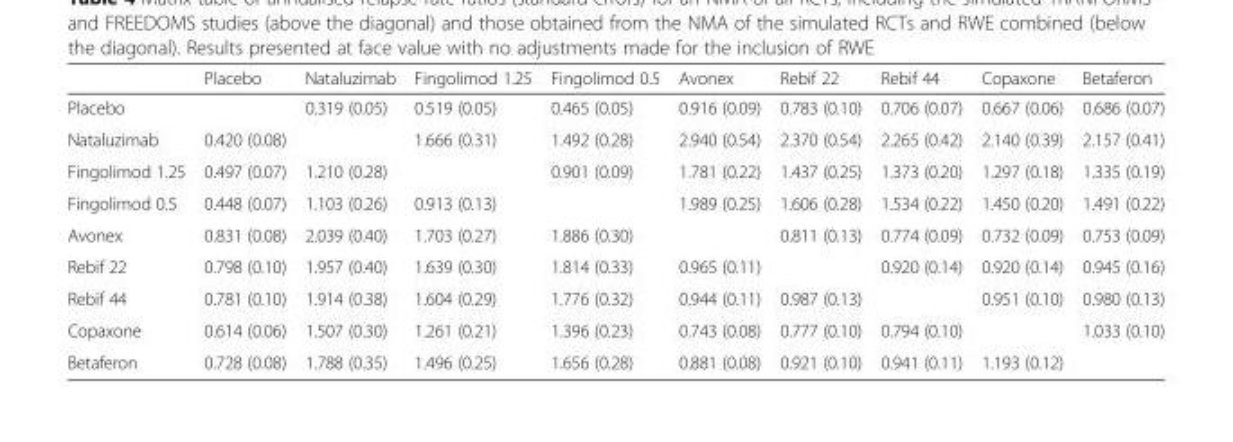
<table><thead><tr><td></td><td>Placebo</td><td>Nataluzimab</td><td>Fingolimod 1.25</td><td>Fingolimod 0.5</td><td>Avonex</td><td>Rebif 22</td><td>Rebif 44</td><td>Copaxone</td><td>Betaferon</td></tr></thead><tbody><tr><td>Placebo</td><td></td><td>0.319 (0.05)</td><td>0.519 (0.05)</td><td>0.465 (0.05)</td><td>0.916 (0.09)</td><td>0.783 (0.10)</td><td>0.706 (0.07)</td><td>0.667 (0.06)</td><td>0.686 (0.07)</td></tr><tr><td>Nataluzimab</td><td>0.420 (0.08)</td><td></td><td>1.666 (0.31)</td><td>1.492 (0.28)</td><td>2.940 (0.54)</td><td>2.370 (0.54)</td><td>2.265 (0.42)</td><td>2.140 (0.39)</td><td>2.157 (0.41)</td></tr><tr><td>Fingolimod 1.25</td><td>0.497 (0.07)</td><td>1.210 (0.28)</td><td></td><td>0.901 (0.09)</td><td>1.781 (0.22)</td><td>1.437 (0.25)</td><td>1.373 (0.20)</td><td>1.297 (0.18)</td><td>1.335 (0.19)</td></tr><tr><td>Fingolimod 0.5</td><td>0.448 (0.07)</td><td>1.103 (0.26)</td><td>0.913 (0.13)</td><td></td><td>1.989 (0.25)</td><td>1.606 (0.28)</td><td>1.534 (0.22)</td><td>1.450 (0.20)</td><td>1.491 (0.22)</td></tr><tr><td>Avonex</td><td>0.831 (0.08)</td><td>2.039 (0.40)</td><td>1.703 (0.27)</td><td>1.886 (0.30)</td><td></td><td>0.811 (0.13)</td><td>0.774 (0.09)</td><td>0.732 (0.09)</td><td>0.753 (0.09)</td></tr><tr><td>Rebif 22</td><td>0.798 (0.10)</td><td>1.957 (0.40)</td><td>1.639 (0.30)</td><td>1.814 (0.33)</td><td>0.965 (0.11)</td><td></td><td>0.920 (0.14)</td><td>0.920 (0.14)</td><td>0.945 (0.16)</td></tr><tr><td>Rebif 44</td><td>0.781 (0.10)</td><td>1.914 (0.38)</td><td>1.604 (0.29)</td><td>1.776 (0.32)</td><td>0.944 (0.11)</td><td>0.987 (0.13)</td><td></td><td>0.951 (0.10)</td><td>0.980 (0.13)</td></tr><tr><td>Copaxone</td><td>0.614 (0.06)</td><td>1.507 (0.30)</td><td>1.261 (0.21)</td><td>1.396 (0.23)</td><td>0.743 (0.08)</td><td>0.777 (0.10)</td><td>0.794 (0.10)</td><td></td><td>1.033 (0.10)</td></tr><tr><td>Betaferon</td><td>0.728 (0.08)</td><td>1.788 (0.35)</td><td>1.496 (0.25)</td><td>1.656 (0.28)</td><td>0.881 (0.08)</td><td>0.921 (0.10)</td><td>0.941 (0.11)</td><td>1.193 (0.12)</td><td></td></tr></tbody></table>